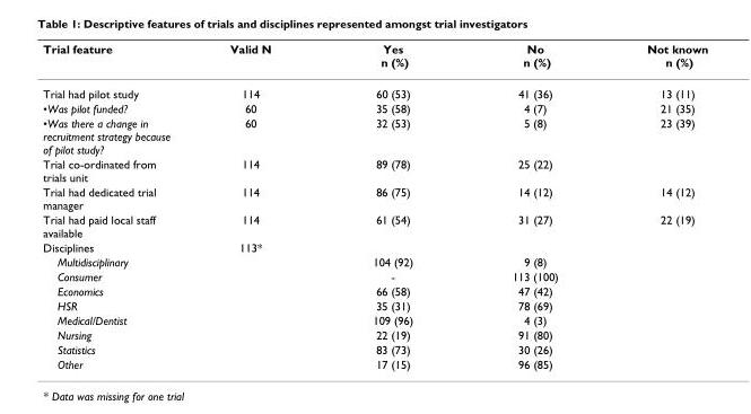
<table><thead><tr><td>Trial feature</td><td>Valid N</td><td>Yes n (%)</td><td>No n (%)</td><td>Not known n (%)</td></tr></thead><tbody><tr><td>Trial had pilot study</td><td>114</td><td>60 (53)</td><td>41 (36)</td><td>13 (11)</td></tr><tr><td>•Was pilot funded?</td><td>60</td><td>35 (58)</td><td>4 (7)</td><td>21 (35)</td></tr><tr><td>•Was there a change in recruitment strategy because of pilot study?</td><td>60</td><td>32 (53)</td><td>5 (8)</td><td>23 (39)</td></tr><tr><td>Trial co-ordinated from trials unit</td><td>114</td><td>89 (78)</td><td>25 (22)</td><td></td></tr><tr><td>Trial had dedicated trial manager</td><td>114</td><td>86 (75)</td><td>14 (12)</td><td>14 (12)</td></tr><tr><td>Trial had paid local staff available</td><td>114</td><td>61 (54)</td><td>31 (27)</td><td>22 (19)</td></tr><tr><td>Disciplines</td><td>113*</td><td></td><td></td><td></td></tr><tr><td>Multidisciplinary</td><td></td><td>104 (92)</td><td>9 (8)</td><td></td></tr><tr><td>Consumer</td><td></td><td>-</td><td>113 (100)</td><td></td></tr><tr><td>Economics</td><td></td><td>66 (58)</td><td>47 (42)</td><td></td></tr><tr><td>HSR</td><td></td><td>35 (31)</td><td>78 (69)</td><td></td></tr><tr><td>Medical/Dentist</td><td></td><td>109 (96)</td><td>4 (3)</td><td></td></tr><tr><td>Nursing</td><td></td><td>22 (19)</td><td>91 (80)</td><td></td></tr><tr><td>Statistics</td><td></td><td>83 (73)</td><td>30 (26)</td><td></td></tr><tr><td>Other</td><td></td><td>17 (15)</td><td>96 (85)</td><td></td></tr></tbody></table>